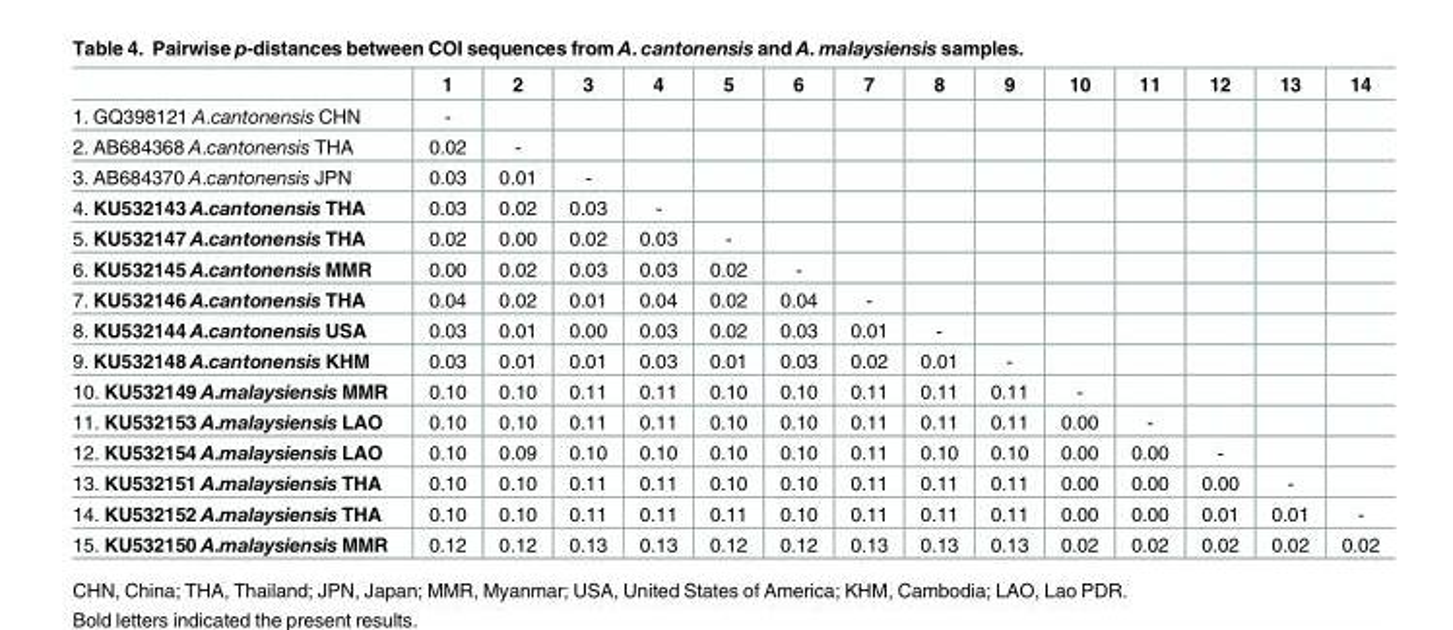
<table><thead><tr><td></td><td>1</td><td>2</td><td>3</td><td>4</td><td>5</td><td>6</td><td>7</td><td>8</td><td>9</td><td>10</td><td>11</td><td>12</td><td>13</td><td>14</td></tr></thead><tbody><tr><td>1. GQ398121 A.cantonensis CHN</td><td>-</td><td></td><td></td><td></td><td></td><td></td><td></td><td></td><td></td><td></td><td></td><td></td><td></td><td></td></tr><tr><td>2. AB684368 A.cantonensis THA</td><td>0.02</td><td>-</td><td></td><td></td><td></td><td></td><td></td><td></td><td></td><td></td><td></td><td></td><td></td><td></td></tr><tr><td>3. AB684370 A.cantonensis JPN</td><td>0.03</td><td>0.01</td><td>-</td><td></td><td></td><td></td><td></td><td></td><td></td><td></td><td></td><td></td><td></td><td></td></tr><tr><td>4. KU532143 A.cantonensis THA</td><td>0.03</td><td>0.02</td><td>0.03</td><td>-</td><td></td><td></td><td></td><td></td><td></td><td></td><td></td><td></td><td></td><td></td></tr><tr><td>5. KU532147 A.cantonensis THA</td><td>0.02</td><td>0.00</td><td>0.02</td><td>0.03</td><td>-</td><td></td><td></td><td></td><td></td><td></td><td></td><td></td><td></td><td></td></tr><tr><td>6. KU532145 A.cantonensis MMR</td><td>0.00</td><td>0.02</td><td>0.03</td><td>0.03</td><td>0.02</td><td>-</td><td></td><td></td><td></td><td></td><td></td><td></td><td></td><td></td></tr><tr><td>7. KU532146 A.cantonensis THA</td><td>0.04</td><td>0.02</td><td>0.01</td><td>0.04</td><td>0.02</td><td>0.04</td><td>-</td><td></td><td></td><td></td><td></td><td></td><td></td><td></td></tr><tr><td>8. KU532144 A.cantonensis USA</td><td>0.03</td><td>0.01</td><td>0.00</td><td>0.03</td><td>0.02</td><td>0.03</td><td>0.01</td><td>-</td><td></td><td></td><td></td><td></td><td></td><td></td></tr><tr><td>9. KU532148 A.cantonensis KHM</td><td>0.03</td><td>0.01</td><td>0.01</td><td>0.03</td><td>0.01</td><td>0.03</td><td>0.02</td><td>0.01</td><td>-</td><td></td><td></td><td></td><td></td><td></td></tr><tr><td>10. KU532149 A.malaysiensis MMR</td><td>0.10</td><td>0.10</td><td>0.11</td><td>0.11</td><td>0.10</td><td>0.10</td><td>0.11</td><td>0.11</td><td>0.11</td><td>-</td><td></td><td></td><td></td><td></td></tr><tr><td>11. KU532153 A.malaysiensis LAO</td><td>0.10</td><td>0.10</td><td>0.11</td><td>0.11</td><td>0.10</td><td>0.10</td><td>0.11</td><td>0.11</td><td>0.11</td><td>0.00</td><td>-</td><td></td><td></td><td></td></tr><tr><td>12. KU532154 A.malaysiensis LAO</td><td>0.10</td><td>0.09</td><td>0.10</td><td>0.10</td><td>0.10</td><td>0.10</td><td>0.11</td><td>0.10</td><td>0.10</td><td>0.00</td><td>0.00</td><td>-</td><td></td><td></td></tr><tr><td>13. KU532151 A.malaysiensis THA</td><td>0.10</td><td>0.10</td><td>0.11</td><td>0.11</td><td>0.10</td><td>0.10</td><td>0.11</td><td>0.11</td><td>0.11</td><td>0.00</td><td>0.00</td><td>0.00</td><td>-</td><td></td></tr><tr><td>14. KU532152 A.malaysiensis THA</td><td>0.10</td><td>0.10</td><td>0.11</td><td>0.11</td><td>0.11</td><td>0.10</td><td>0.11</td><td>0.11</td><td>0.11</td><td>0.00</td><td>0.00</td><td>0.01</td><td>0.01</td><td>-</td></tr><tr><td>15. KU532150 A.malaysiensis MMR</td><td>0.12</td><td>0.12</td><td>0.13</td><td>0.13</td><td>0.12</td><td>0.12</td><td>0.13</td><td>0.13</td><td>0.13</td><td>0.02</td><td>0.02</td><td>0.02</td><td>0.02</td><td>0.02</td></tr></tbody></table>